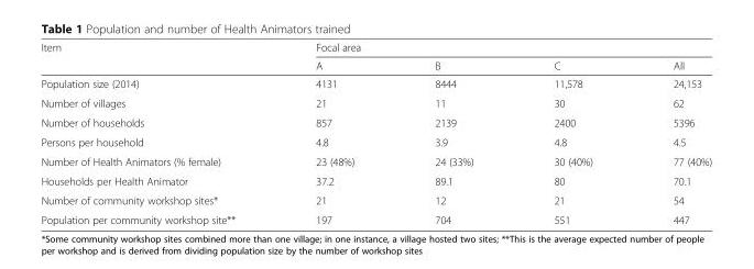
<table><thead><tr><td rowspan="2">Item</td><td colspan="4">Focal area</td></tr><tr><td>A</td><td>B</td><td>C</td><td>All</td></tr></thead><tbody><tr><td>Population size (2014)</td><td>4131</td><td>8444</td><td>11,578</td><td>24,153</td></tr><tr><td>Number of villages</td><td>21</td><td>11</td><td>30</td><td>62</td></tr><tr><td>Number of households</td><td>857</td><td>2139</td><td>2400</td><td>5396</td></tr><tr><td>Persons per household</td><td>4.8</td><td>3.9</td><td>4.8</td><td>4.5</td></tr><tr><td>Number of Health Animators (% female)</td><td>23 (48%)</td><td>24 (33%)</td><td>30 (40%)</td><td>77 (40%)</td></tr><tr><td>Households per Health Animator</td><td>37.2</td><td>89.1</td><td>80</td><td>70.1</td></tr><tr><td>Number of community workshop sites*</td><td>21</td><td>12</td><td>21</td><td>54</td></tr><tr><td>Population per community workshop site**</td><td>197</td><td>704</td><td>551</td><td>447</td></tr></tbody></table>